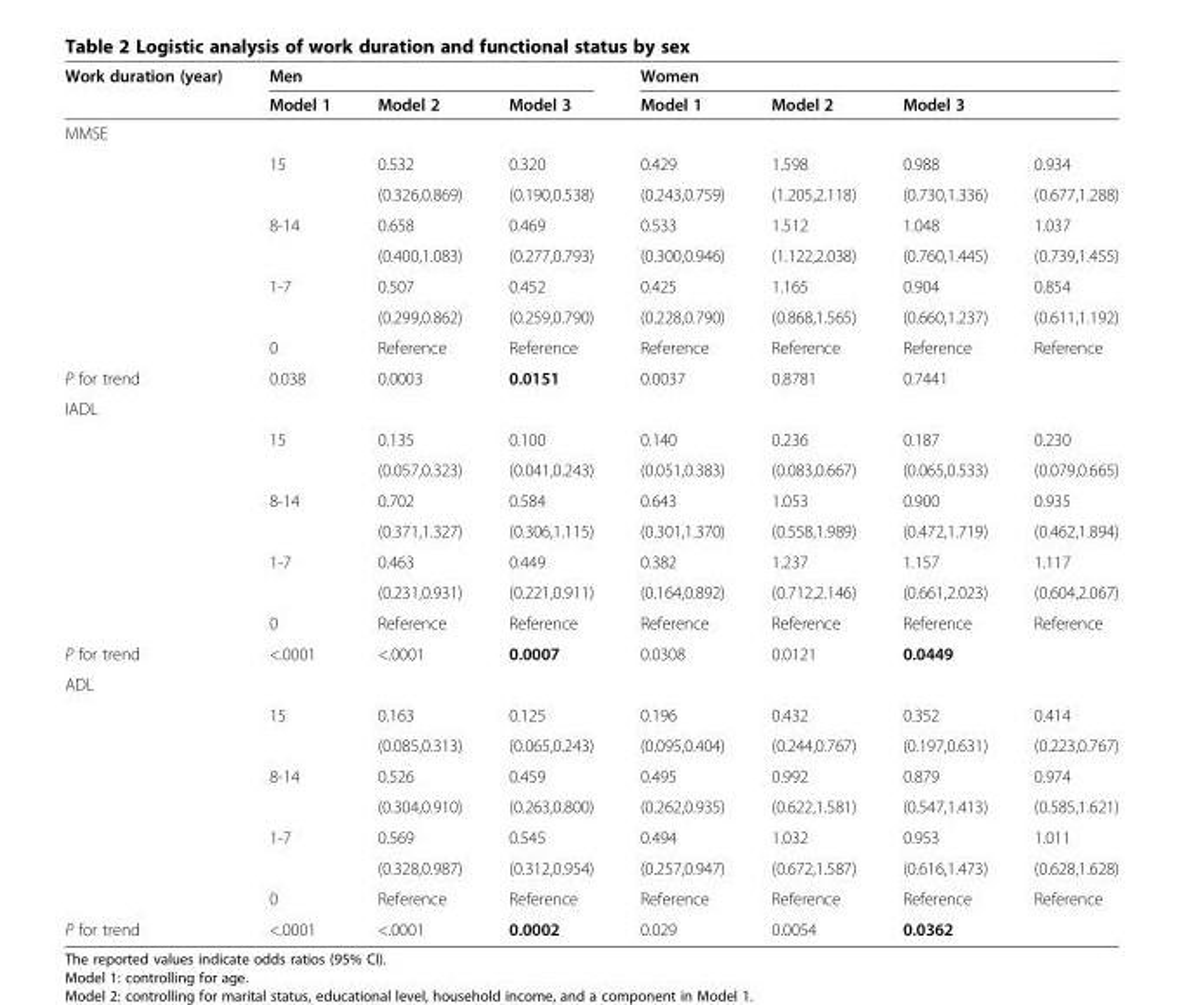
<table><thead><tr><td rowspan="2">Work duration (year)</td><td colspan="3">Men</td><td colspan="4">Women</td></tr><tr><td>Model 1</td><td>Model 2</td><td>Model 3</td><td>Model 1</td><td>Model 2</td><td>Model 3</td><td></td></tr></thead><tbody><tr><td colspan="8">MMSE</td></tr><tr><td></td><td>15</td><td>0.532</td><td>0.320</td><td>0.429</td><td>1.598</td><td>0.988</td><td>0.934</td></tr><tr><td></td><td></td><td>(0.326,0.869)</td><td>(0.190,0.538)</td><td>(0.243,0.759)</td><td>(1.205,2.118)</td><td>(0.730,1.336)</td><td>(0.677,1.288)</td></tr><tr><td></td><td>8-14</td><td>0.658</td><td>0.469</td><td>0.533</td><td>1.512</td><td>1.048</td><td>1.037</td></tr><tr><td></td><td></td><td>(0.400,1.083)</td><td>(0.277,0.793)</td><td>(0.300,0.946)</td><td>(1.122,2.038)</td><td>(0.760,1.445)</td><td>(0.739,1.455)</td></tr><tr><td></td><td>1-7</td><td>0.507</td><td>0.452</td><td>0.425</td><td>1.165</td><td>0.904</td><td>0.854</td></tr><tr><td></td><td></td><td>(0.299,0.862)</td><td>(0.259,0.790)</td><td>(0.228,0.790)</td><td>(0.868,1.565)</td><td>(0.660,1.237)</td><td>(0.611,1.192)</td></tr><tr><td></td><td>0</td><td>Reference</td><td>Reference</td><td>Reference</td><td>Reference</td><td>Reference</td><td>Reference</td></tr><tr><td>P for trend</td><td>0.038</td><td>0.0003</td><td>0.0151</td><td>0.0037</td><td>0.8781</td><td>0.7441</td><td></td></tr><tr><td colspan="8">IADL</td></tr><tr><td></td><td>15</td><td>0.135</td><td>0.100</td><td>0.140</td><td>0.236</td><td>0.187</td><td>0.230</td></tr><tr><td></td><td></td><td>(0.057,0.323)</td><td>(0.041,0.243)</td><td>(0.051,0.383)</td><td>(0.083,0.667)</td><td>(0.065,0.533)</td><td>(0.079,0.665)</td></tr><tr><td></td><td>8-14</td><td>0.702</td><td>0.584</td><td>0.643</td><td>1.053</td><td>0.900</td><td>0.935</td></tr><tr><td></td><td></td><td>(0.371,1.327)</td><td>(0.306,1.115)</td><td>(0.301,1.370)</td><td>(0.558,1.989)</td><td>(0.472,1.719)</td><td>(0.462,1.894)</td></tr><tr><td></td><td>1-7</td><td>0.463</td><td>0.449</td><td>0.382</td><td>1.237</td><td>1.157</td><td>1.117</td></tr><tr><td></td><td></td><td>(0.231,0.931)</td><td>(0.221,0.911)</td><td>(0.164,0.892)</td><td>(0.712,2.146)</td><td>(0.661,2.023)</td><td>(0.604,2.067)</td></tr><tr><td></td><td>0</td><td>Reference</td><td>Reference</td><td>Reference</td><td>Reference</td><td>Reference</td><td>Reference</td></tr><tr><td>P for trend</td><td>&lt;.0001</td><td>&lt;.0001</td><td>0.0007</td><td>0.0308</td><td>0.0121</td><td>0.0449</td><td></td></tr><tr><td colspan="8">ADL</td></tr><tr><td></td><td>15</td><td>0.163</td><td>0.125</td><td>0.196</td><td>0.432</td><td>0.352</td><td>0.414</td></tr><tr><td></td><td></td><td>(0.085,0.313)</td><td>(0.065,0.243)</td><td>(0.095,0.404)</td><td>(0.244,0.767)</td><td>(0.197,0.631)</td><td>(0.223,0.767)</td></tr><tr><td></td><td>8-14</td><td>0.526</td><td>0.459</td><td>0.495</td><td>0.992</td><td>0.879</td><td>0.974</td></tr><tr><td></td><td></td><td>(0.304,0.910)</td><td>(0.263,0.800)</td><td>(0.262,0.935)</td><td>(0.622,1.581)</td><td>(0.547,1.413)</td><td>(0.585,1.621)</td></tr><tr><td></td><td>1-7</td><td>0.569</td><td>0.545</td><td>0.494</td><td>1.032</td><td>0.953</td><td>1.011</td></tr><tr><td></td><td></td><td>(0.328,0.987)</td><td>(0.312,0.954)</td><td>(0.257,0.947)</td><td>(0.672,1.587)</td><td>(0.616,1.473)</td><td>(0.628,1.628)</td></tr><tr><td></td><td>0</td><td>Reference</td><td>Reference</td><td>Reference</td><td>Reference</td><td>Reference</td><td>Reference</td></tr><tr><td>P for trend</td><td>&lt;.0001</td><td>&lt;.0001</td><td>0.0002</td><td>0.029</td><td>0.0054</td><td>0.0362</td><td></td></tr></tbody></table>